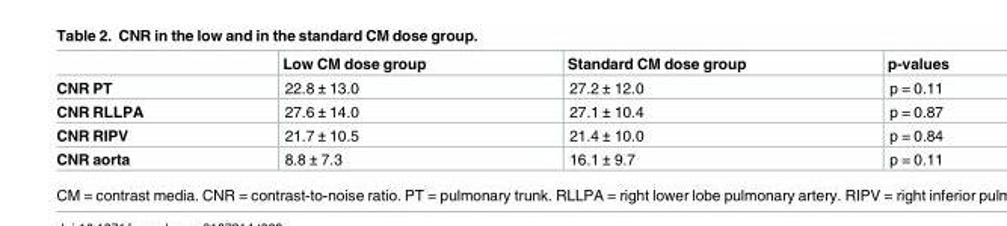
<table><thead><tr><td></td><td>Low CM dose group</td><td>Standard CM dose group</td><td>p-values</td></tr></thead><tbody><tr><td>CNR PT</td><td>22.8 ± 13.0</td><td>27.2 ± 12.0</td><td>p = 0.11</td></tr><tr><td>CNR RLLPA</td><td>27.6 ± 14.0</td><td>27.1 ± 10.4</td><td>p = 0.87</td></tr><tr><td>CNR RIPV</td><td>21.7 ± 10.5</td><td>21.4 ± 10.0</td><td>p = 0.84</td></tr><tr><td>CNR aorta</td><td>8.8 ± 7.3</td><td>16.1 ± 9.7</td><td>p = 0.11</td></tr></tbody></table>